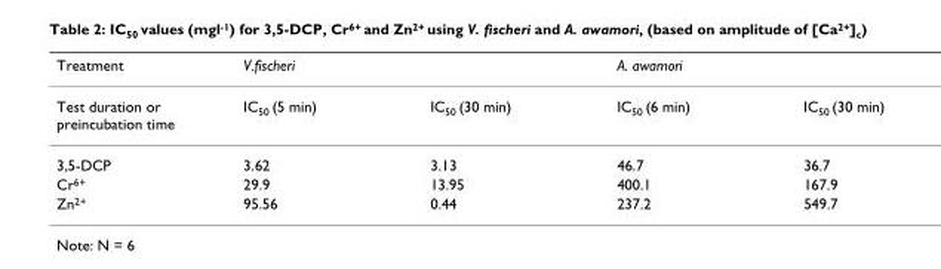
<table><thead><tr><td rowspan="2">Treatment Test duration or preincubation time</td><td colspan="2">V.fischeri</td><td colspan="2">A. awamori</td></tr><tr><td>IC50 (5 min)</td><td>IC50 (30 min)</td><td>IC50 (6 min)</td><td>IC50 (30 min)</td></tr></thead><tbody><tr><td>3,5-DCP</td><td>3.62</td><td>3.13</td><td>46.7</td><td>36.7</td></tr><tr><td>Cr6+</td><td>29.9</td><td>13.95</td><td>400.1</td><td>167.9</td></tr><tr><td>Zn2+</td><td>95.56</td><td>0.44</td><td>237.2</td><td>549.7</td></tr></tbody></table>